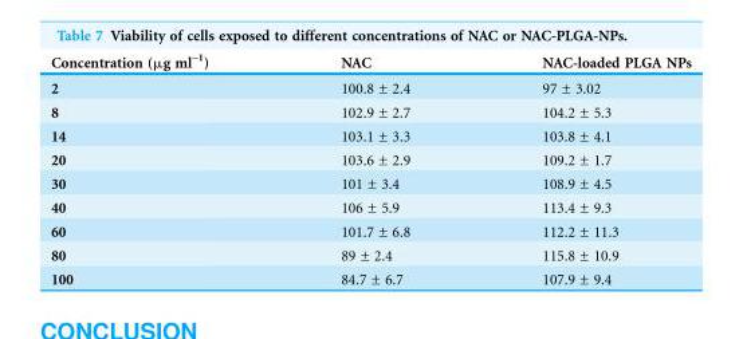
<table><thead><tr><td>Concentration (μg ml<sup>-1</sup>)</td><td>NAC</td><td>NAC-loaded PLGA NPs</td></tr></thead><tbody><tr><td>2</td><td>100.8 ± 2.4</td><td>97 ± 3.02</td></tr><tr><td>8</td><td>102.9 ± 2.7</td><td>104.2 ± 5.3</td></tr><tr><td>14</td><td>103.1 ± 3.3</td><td>103.8 ± 4.1</td></tr><tr><td>20</td><td>103.6 ± 2.9</td><td>109.2 ± 1.7</td></tr><tr><td>30</td><td>101 ± 3.4</td><td>108.9 ± 4.5</td></tr><tr><td>40</td><td>106 ± 5.9</td><td>113.4 ± 9.3</td></tr><tr><td>60</td><td>101.7 ± 6.8</td><td>112.2 ± 11.3</td></tr><tr><td>80</td><td>89 ± 2.4</td><td>115.8 ± 10.9</td></tr><tr><td>100</td><td>84.7 ± 6.7</td><td>107.9 ± 9.4</td></tr></tbody></table>